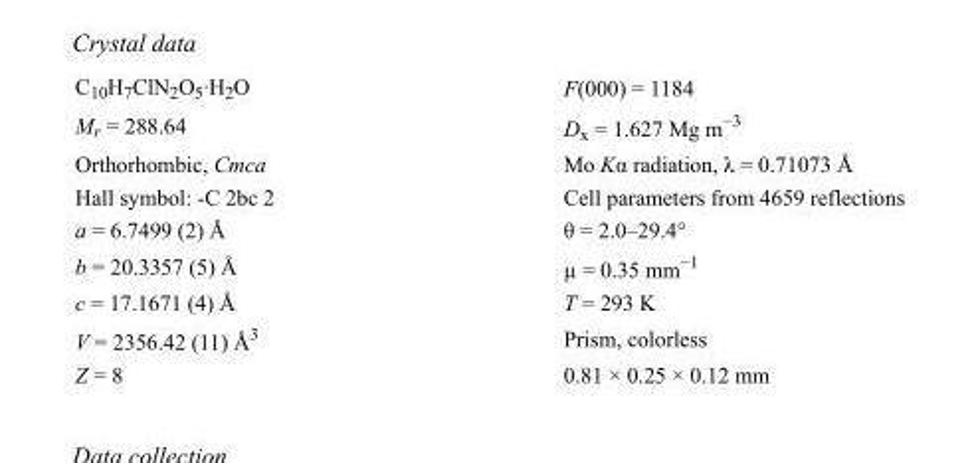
<table><tbody><tr><td>C<sub>10</sub>H<sub>7</sub>ClN<sub>2</sub>O<sub>5</sub>·H<sub>2</sub>O</td><td>F(000) = 1184</td></tr><tr><td>M<sub>r</sub> = 288.64</td><td>D<sub>x</sub> = 1.627 Mg m<sup>−3</sup></td></tr><tr><td>Orthorhombic, Cmca</td><td>Mo Kα radiation, λ = 0.71073 Å</td></tr><tr><td>Hall symbol: -C 2bc 2</td><td>Cell parameters from 4659 reflections</td></tr><tr><td>a = 6.7499 (2) Å</td><td>θ = 2.0–29.4°</td></tr><tr><td>b = 20.3357 (5) Å</td><td>µ = 0.35 mm<sup>−1</sup></td></tr><tr><td>c = 17.1671 (4) Å</td><td>T = 293 K</td></tr><tr><td>V = 2356.42 (11) Å<sup>3</sup></td><td>Prism, colorless</td></tr><tr><td>Z = 8</td><td>0.81 × 0.25 × 0.12 mm</td></tr></tbody></table>